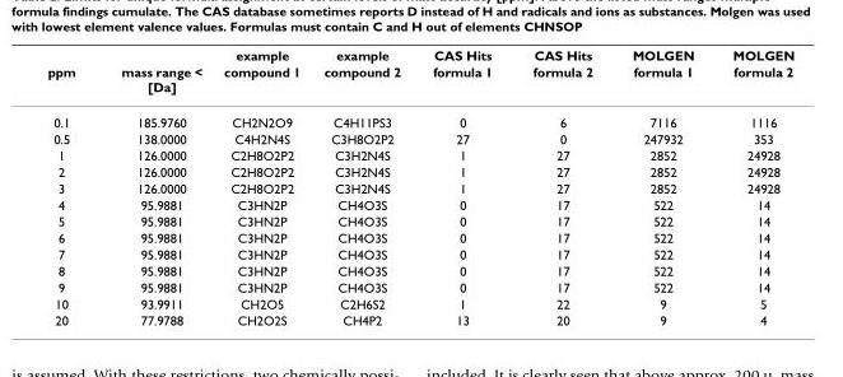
<table><thead><tr><td rowspan="2">ppm</td><td rowspan="2">mass range &lt; [Da]</td><td rowspan="2">example compound 1</td><td rowspan="2">example compound 2</td><td rowspan="2">CAS Hits formula 1</td><td rowspan="2">CAS Hits formula 2</td><td rowspan="2">MOLGEN formula 1</td><td rowspan="2">MOLGEN formula 2</td></tr><tr></tr></thead><tbody><tr><td>0.1</td><td>185.9760</td><td>CH2N2O9</td><td>C4H11PS3</td><td>0</td><td>6</td><td>7116</td><td>1116</td></tr><tr><td>0.5</td><td>138.0000</td><td>C4H2N4S</td><td>C3H8O2P2</td><td>27</td><td>0</td><td>247932</td><td>353</td></tr><tr><td>1</td><td>126.0000</td><td>C2H8O2P2</td><td>C3H2N4S</td><td>1</td><td>27</td><td>2852</td><td>24928</td></tr><tr><td>2</td><td>126.0000</td><td>C2H8O2P2</td><td>C3H2N4S</td><td>1</td><td>27</td><td>2852</td><td>24928</td></tr><tr><td>3</td><td>126.0000</td><td>C2H8O2P2</td><td>C3H2N4S</td><td>1</td><td>27</td><td>2852</td><td>24928</td></tr><tr><td>4</td><td>95.9881</td><td>C3HN2P</td><td>CH4O3S</td><td>0</td><td>17</td><td>522</td><td>14</td></tr><tr><td>5</td><td>95.9881</td><td>C3HN2P</td><td>CH4O3S</td><td>0</td><td>17</td><td>522</td><td>14</td></tr><tr><td>6</td><td>95.9881</td><td>C3HN2P</td><td>CH4O3S</td><td>0</td><td>17</td><td>522</td><td>14</td></tr><tr><td>7</td><td>95.9881</td><td>C3HN2P</td><td>CH4O3S</td><td>0</td><td>17</td><td>522</td><td>14</td></tr><tr><td>8</td><td>95.9881</td><td>C3HN2P</td><td>CH4O3S</td><td>0</td><td>17</td><td>522</td><td>14</td></tr><tr><td>9</td><td>95.9881</td><td>C3HN2P</td><td>CH4O3S</td><td>0</td><td>17</td><td>522</td><td>14</td></tr><tr><td>10</td><td>93.9911</td><td>CH2O5</td><td>C2H6S2</td><td>1</td><td>22</td><td>9</td><td>5</td></tr><tr><td>20</td><td>77.9788</td><td>CH2O2S</td><td>CH4P2</td><td>13</td><td>20</td><td>9</td><td>4</td></tr></tbody></table>